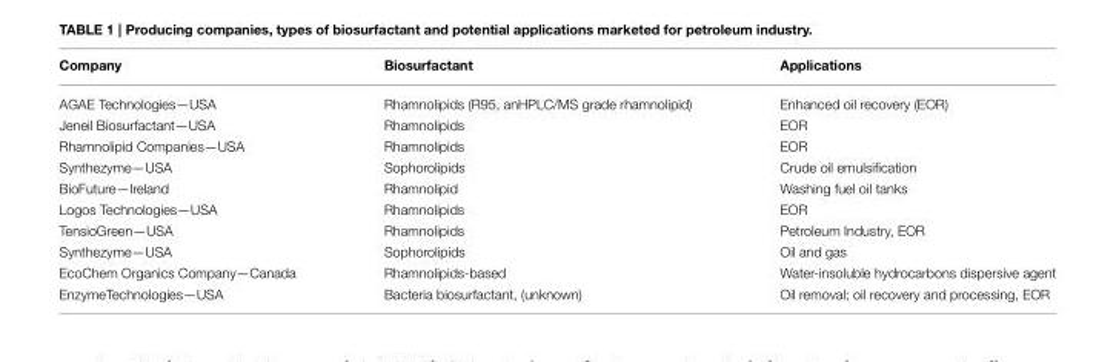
<table><thead><tr><td>Company</td><td>Biosurfactant</td><td>Applications</td></tr></thead><tbody><tr><td>AGAE Technologies—USA</td><td>Rhamnolipids (R95, anHPLC/MS grade rhamnolipid)</td><td>Enhanced oil recovery (EOR)</td></tr><tr><td>Jeneil Biosurfactant—USA</td><td>Rhamnolipids</td><td>EOR</td></tr><tr><td>Rhamnolipid Companies—USA</td><td>Rhamnolipids</td><td>EOR</td></tr><tr><td>Synthezyme—USA</td><td>Sophorolipids</td><td>Crude oil emulsification</td></tr><tr><td>BioFuture—Ireland</td><td>Rhamnolipid</td><td>Washing fuel oil tanks</td></tr><tr><td>Logos Technologies—USA</td><td>Rhamnolipids</td><td>EOR</td></tr><tr><td>TensioGreen—USA</td><td>Rhamnolipids</td><td>Petroleum Industry, EOR</td></tr><tr><td>Synthezyme—USA</td><td>Sophorolipids</td><td>Oil and gas</td></tr><tr><td>EcoChem Organics Company—Canada</td><td>Rhamnolipids-based</td><td>Water-insoluble hydrocarbons dispersive agent</td></tr><tr><td>EnzymeTechnologies—USA</td><td>Bacteria biosurfactant, (unknown)</td><td>Oil removal; oil recovery and processing, EOR</td></tr></tbody></table>